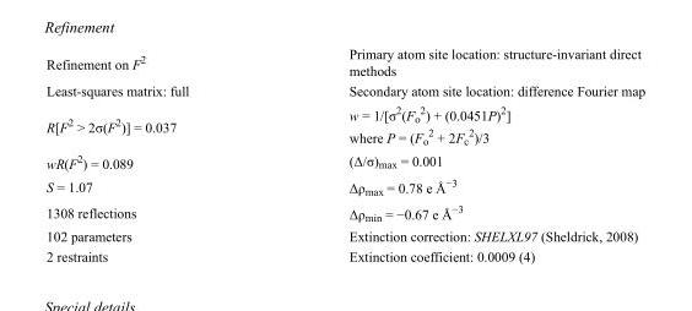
<table><tbody><tr><td>Refinement on F<sup>2</sup></td><td>Primary atom site location: structure-invariant direct methods</td></tr><tr><td>Least-squares matrix: full</td><td>Secondary atom site location: difference Fourier map</td></tr><tr><td>R[F<sup>2</sup> &gt; 2σ(F<sup>2</sup>)] = 0.037</td><td>w = 1/[σ<sup>2</sup>(F<sub>o</sub> <sup>2</sup>) + (0.0451P)<sup>2</sup>] where P = (F<sub>o</sub> <sup>2</sup> + 2F<sub>c</sub> <sup>2</sup>)/3</td></tr><tr><td>wR(F<sup>2</sup>) = 0.089</td><td>(Δ/σ)<sub>max</sub> = 0.001</td></tr><tr><td>S = 1.07</td><td>Δρ<sub>max</sub> = 0.78 e Å<sup>−3</sup></td></tr><tr><td>1308 reflections</td><td>Δρmin = −0.67 e Å−3</td></tr><tr><td>102 parameters</td><td>Extinction correction: SHELXL97 (Sheldrick, 2008)</td></tr><tr><td>2 restraints</td><td>Extinction coefficient: 0.0009 (4)</td></tr></tbody></table>